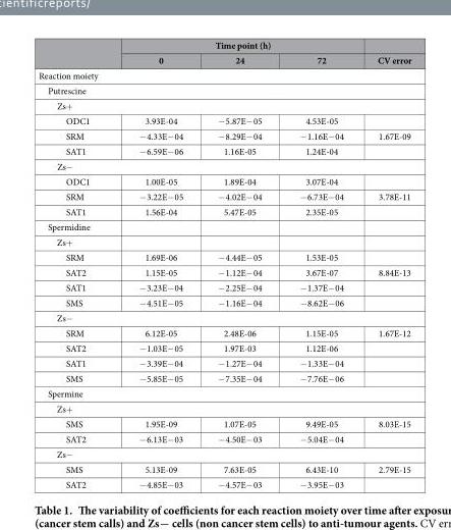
<table><thead><tr><td rowspan="2"></td><td colspan="3">Time point (h)</td><td rowspan="2">CV error</td></tr><tr><td>0</td><td>24</td><td>72</td></tr></thead><tbody><tr><td colspan="5">Reaction moiety</td></tr><tr><td colspan="5">Putrescine</td></tr><tr><td colspan="5">Zs+</td></tr><tr><td>ODC1</td><td>3.93E-04</td><td>− 5.87E− 05</td><td>4.53E-05</td><td></td></tr><tr><td>SRM</td><td>− 4.33E− 04</td><td>− 8.29E− 04</td><td>− 1.16E− 04</td><td>1.67E-09</td></tr><tr><td>SAT1</td><td>− 6.59E− 06</td><td>1.16E-05</td><td>1.24E-04</td><td></td></tr><tr><td colspan="5">Zs−</td></tr><tr><td>ODC1</td><td>1.00E-05</td><td>1.89E-04</td><td>3.07E-04</td><td></td></tr><tr><td>SRM</td><td>− 3.22E− 05</td><td>− 4.02E− 04</td><td>− 6.73E− 04</td><td>3.78E-11</td></tr><tr><td>SAT1</td><td>1.56E-04</td><td>5.47E-05</td><td>2.35E-05</td><td></td></tr><tr><td colspan="5">Spermidine</td></tr><tr><td colspan="5">Zs+</td></tr><tr><td>SRM</td><td>1.69E-06</td><td>− 4.44E− 05</td><td>1.53E-05</td><td></td></tr><tr><td>SAT2</td><td>1.15E-05</td><td>− 1.12E− 04</td><td>3.67E-07</td><td>8.84E-13</td></tr><tr><td>SAT1</td><td>− 3.23E− 04</td><td>− 2.25E− 04</td><td>− 1.37E− 04</td><td></td></tr><tr><td>SMS</td><td>− 4.51E− 05</td><td>− 1.16E− 04</td><td>− 8.62E− 06</td><td></td></tr><tr><td colspan="5">Zs−</td></tr><tr><td>SRM</td><td>6.12E-05</td><td>2.48E-06</td><td>1.15E-05</td><td>1.67E-12</td></tr><tr><td>SAT2</td><td>− 1.03E− 05</td><td>1.97E-03</td><td>1.12E-06</td><td></td></tr><tr><td>SAT1</td><td>− 3.39E− 04</td><td>− 1.27E− 04</td><td>− 1.33E− 04</td><td></td></tr><tr><td>SMS</td><td>− 5.85E− 05</td><td>− 7.35E− 04</td><td>− 7.76E− 06</td><td></td></tr><tr><td colspan="5">Spermine</td></tr><tr><td colspan="5">Zs+</td></tr><tr><td>SMS</td><td>1.95E-09</td><td>1.07E-05</td><td>9.49E-05</td><td>8.03E-15</td></tr><tr><td>SAT2</td><td>− 6.13E− 03</td><td>− 4.50E− 03</td><td>− 5.04E− 04</td><td></td></tr><tr><td colspan="5">Zs−</td></tr><tr><td>SMS</td><td>5.13E-09</td><td>7.63E-05</td><td>6.43E-10</td><td>2.79E-15</td></tr><tr><td>SAT2</td><td>− 4.85E− 03</td><td>− 4.57E− 03</td><td>− 3.95E− 03</td><td></td></tr></tbody></table>